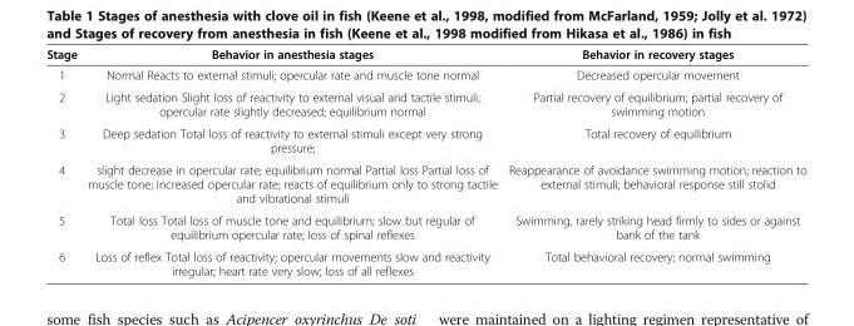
<table><thead><tr><td>Stage</td><td>Behavior in anesthesia stages</td><td>Behavior in recovery stages</td></tr></thead><tbody><tr><td>1</td><td>Normal Reacts to external stimuli; opercular rate and muscle tone normal</td><td>Decreased opercular movement</td></tr><tr><td>2</td><td>Light sedation Slight loss of reactivity to external visual and tactile stimuli; opercular rate slightly decreased; equilibrium normal</td><td>Partial recovery of equilibrium; partial recovery of swimming motion</td></tr><tr><td>3</td><td>Deep sedation Total loss of reactivity to external stimuli except very strong pressure;</td><td>Total recovery of equilibrium</td></tr><tr><td>4</td><td>slight decrease in opercular rate; equilibrium normal Partial loss Partial loss of muscle tone; increased opercular rate; reacts of equilibrium only to strong tactile and vibrational stimuli</td><td>Reappearance of avoidance swimming motion; reaction to external stimuli; behavioral response still stolid</td></tr><tr><td>5</td><td>Total loss Total loss of muscle tone and equilibrium; slow but regular of equilibrium opercular rate; loss of spinal reflexes</td><td>Swimming, rarely striking head firmly to sides or against bank of the tank</td></tr><tr><td>6</td><td>Loss of reflex Total loss of reactivity; opercular movements slow and reactivity irregular; heart rate very slow; loss of all reflexes</td><td>Total behavioral recovery; normal swimming</td></tr></tbody></table>